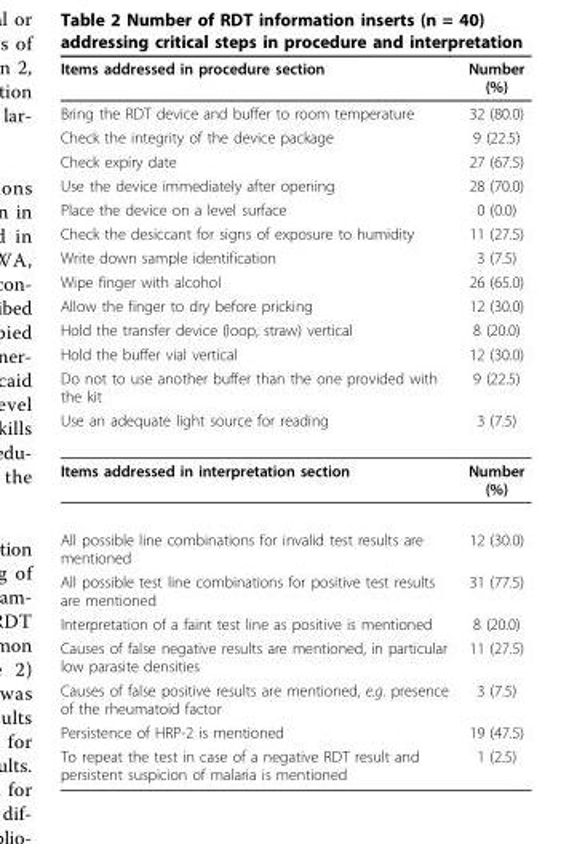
<table><tbody><tr><td>Items addressed in procedure section</td><td>Number (%)</td></tr><tr><td>Bring the RDT device and buffer to room temperature</td><td>32 (80.0)</td></tr><tr><td>Check the integrity of the device package</td><td>9 (22.5)</td></tr><tr><td>Check expiry date</td><td>27 (67.5)</td></tr><tr><td>Use the device immediately after opening</td><td>28 (70.0)</td></tr><tr><td>Place the device on a level surface</td><td>0 (0.0)</td></tr><tr><td>Check the desiccant for signs of exposure to humidity</td><td>11 (27.5)</td></tr><tr><td>Write down sample identification</td><td>3 (7.5)</td></tr><tr><td>Wipe finger with alcohol</td><td>26 (65.0)</td></tr><tr><td>Allow the finger to dry before pricking</td><td>12 (30.0)</td></tr><tr><td>Hold the transfer device (loop, straw) vertical</td><td>8 (20.0)</td></tr><tr><td>Hold the buffer vial vertical</td><td>12 (30.0)</td></tr><tr><td>Do not to use another buffer than the one provided with the kit</td><td>9 (22.5)</td></tr><tr><td>Use an adequate light source for reading</td><td>3 (7.5)</td></tr><tr><td>Items addressed in interpretation section</td><td>Number (%)</td></tr><tr><td>All possible line combinations for invalid test results are mentioned</td><td>12 (30.0)</td></tr><tr><td>All possible test line combinations for positive test results are mentioned</td><td>31 (77.5)</td></tr><tr><td>Interpretation of a faint test line as positive is mentioned</td><td>8 (20.0)</td></tr><tr><td>Causes of false negative results are mentioned, in particular low parasite densities</td><td>11 (27.5)</td></tr><tr><td>Causes of false positive results are mentioned, e.g. presence of the rheumatoid factor</td><td>3 (7.5)</td></tr><tr><td>Persistence of HRP-2 is mentioned</td><td>19 (47.5)</td></tr><tr><td>To repeat the test in case of a negative RDT result and persistent suspicion of malaria is mentioned</td><td>1 (2.5)</td></tr></tbody></table>